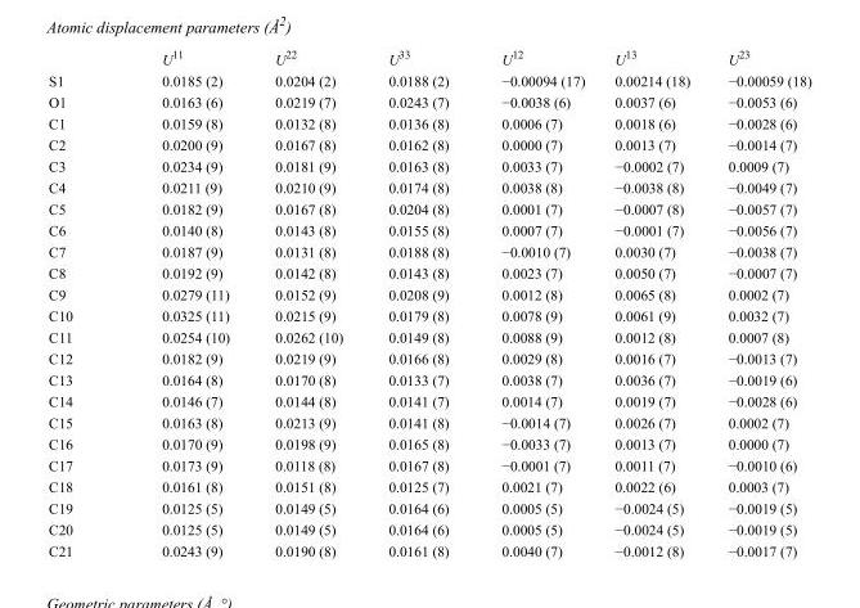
<table><thead><tr><td></td><td>U<sup>11</sup></td><td>U<sup>22</sup></td><td>U<sup>33</sup></td><td>U<sup>12</sup></td><td>U<sup>13</sup></td><td>U<sup>23</sup></td></tr></thead><tbody><tr><td>S1</td><td>0.0185 (2)</td><td>0.0204 (2)</td><td>0.0188 (2)</td><td>−0.00094 (17)</td><td>0.00214 (18)</td><td>−0.00059 (18)</td></tr><tr><td>O1</td><td>0.0163 (6)</td><td>0.0219 (7)</td><td>0.0243 (7)</td><td>−0.0038 (6)</td><td>0.0037 (6)</td><td>−0.0053 (6)</td></tr><tr><td>C1</td><td>0.0159 (8)</td><td>0.0132 (8)</td><td>0.0136 (8)</td><td>0.0006 (7)</td><td>0.0018 (6)</td><td>−0.0028 (6)</td></tr><tr><td>C2</td><td>0.0200 (9)</td><td>0.0167 (8)</td><td>0.0162 (8)</td><td>0.0000 (7)</td><td>0.0013 (7)</td><td>−0.0014 (7)</td></tr><tr><td>C3</td><td>0.0234 (9)</td><td>0.0181 (9)</td><td>0.0163 (8)</td><td>0.0033 (7)</td><td>−0.0002 (7)</td><td>0.0009 (7)</td></tr><tr><td>C4</td><td>0.0211 (9)</td><td>0.0210 (9)</td><td>0.0174 (8)</td><td>0.0038 (8)</td><td>−0.0038 (8)</td><td>−0.0049 (7)</td></tr><tr><td>C5</td><td>0.0182 (9)</td><td>0.0167 (8)</td><td>0.0204 (8)</td><td>0.0001 (7)</td><td>−0.0007 (8)</td><td>−0.0057 (7)</td></tr><tr><td>C6</td><td>0.0140 (8)</td><td>0.0143 (8)</td><td>0.0155 (8)</td><td>0.0007 (7)</td><td>−0.0001 (7)</td><td>−0.0056 (7)</td></tr><tr><td>C7</td><td>0.0187 (9)</td><td>0.0131 (8)</td><td>0.0188 (8)</td><td>−0.0010 (7)</td><td>0.0030 (7)</td><td>−0.0038 (7)</td></tr><tr><td>C8</td><td>0.0192 (9)</td><td>0.0142 (8)</td><td>0.0143 (8)</td><td>0.0023 (7)</td><td>0.0050 (7)</td><td>−0.0007 (7)</td></tr><tr><td>C9</td><td>0.0279 (11)</td><td>0.0152 (9)</td><td>0.0208 (9)</td><td>0.0012 (8)</td><td>0.0065 (8)</td><td>0.0002 (7)</td></tr><tr><td>C10</td><td>0.0325 (11)</td><td>0.0215 (9)</td><td>0.0179 (8)</td><td>0.0078 (9)</td><td>0.0061 (9)</td><td>0.0032 (7)</td></tr><tr><td>C11</td><td>0.0254 (10)</td><td>0.0262 (10)</td><td>0.0149 (8)</td><td>0.0088 (9)</td><td>0.0012 (8)</td><td>0.0007 (8)</td></tr><tr><td>C12</td><td>0.0182 (9)</td><td>0.0219 (9)</td><td>0.0166 (8)</td><td>0.0029 (8)</td><td>0.0016 (7)</td><td>−0.0013 (7)</td></tr><tr><td>C13</td><td>0.0164 (8)</td><td>0.0170 (8)</td><td>0.0133 (7)</td><td>0.0038 (7)</td><td>0.0036 (7)</td><td>−0.0019 (6)</td></tr><tr><td>C14</td><td>0.0146 (7)</td><td>0.0144 (8)</td><td>0.0141 (7)</td><td>0.0014 (7)</td><td>0.0019 (7)</td><td>−0.0028 (6)</td></tr><tr><td>C15</td><td>0.0163 (8)</td><td>0.0213 (9)</td><td>0.0141 (8)</td><td>−0.0014 (7)</td><td>0.0026 (7)</td><td>0.0002 (7)</td></tr><tr><td>C16</td><td>0.0170 (9)</td><td>0.0198 (9)</td><td>0.0165 (8)</td><td>−0.0033 (7)</td><td>0.0013 (7)</td><td>0.0000 (7)</td></tr><tr><td>C17</td><td>0.0173 (9)</td><td>0.0118 (8)</td><td>0.0167 (8)</td><td>−0.0001 (7)</td><td>0.0011 (7)</td><td>−0.0010 (6)</td></tr><tr><td>C18</td><td>0.0161 (8)</td><td>0.0151 (8)</td><td>0.0125 (7)</td><td>0.0021 (7)</td><td>0.0022 (6)</td><td>0.0003 (7)</td></tr><tr><td>C19</td><td>0.0125 (5)</td><td>0.0149 (5)</td><td>0.0164 (6)</td><td>0.0005 (5)</td><td>−0.0024 (5)</td><td>−0.0019 (5)</td></tr><tr><td>C20</td><td>0.0125 (5)</td><td>0.0149 (5)</td><td>0.0164 (6)</td><td>0.0005 (5)</td><td>−0.0024 (5)</td><td>−0.0019 (5)</td></tr><tr><td>C21</td><td>0.0243 (9)</td><td>0.0190 (8)</td><td>0.0161 (8)</td><td>0.0040 (7)</td><td>−0.0012 (8)</td><td>−0.0017 (7)</td></tr></tbody></table>